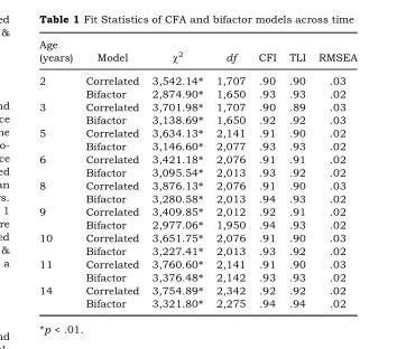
<table><thead><tr><td>Age (years)</td><td>Model</td><td>χ<sup>2</sup></td><td>df</td><td>CFI</td><td>TLI</td><td>RMSEA</td></tr></thead><tbody><tr><td rowspan="2">2</td><td>Correlated</td><td>3,542.14*</td><td>1,707</td><td>.90</td><td>.90</td><td>.03</td></tr><tr><td>Bifactor</td><td>2,874.90*</td><td>1,650</td><td>.93</td><td>.93</td><td>.02</td></tr><tr><td rowspan="2">3</td><td>Correlated</td><td>3,701.98*</td><td>1,707</td><td>.90</td><td>.89</td><td>.03</td></tr><tr><td>Bifactor</td><td>3,138.69*</td><td>1,650</td><td>.92</td><td>.92</td><td>.03</td></tr><tr><td rowspan="2">5</td><td>Correlated</td><td>3,634.13*</td><td>2,141</td><td>.91</td><td>.90</td><td>.02</td></tr><tr><td>Bifactor</td><td>3,146.60*</td><td>2,077</td><td>.93</td><td>.93</td><td>.02</td></tr><tr><td rowspan="2">6</td><td>Correlated</td><td>3,421.18*</td><td>2,076</td><td>.91</td><td>.91</td><td>.02</td></tr><tr><td>Bifactor</td><td>3,095.54*</td><td>2,013</td><td>.93</td><td>.92</td><td>.02</td></tr><tr><td rowspan="2">8</td><td>Correlated</td><td>3,876.13*</td><td>2,076</td><td>.91</td><td>.90</td><td>.03</td></tr><tr><td>Bifactor</td><td>3,280.58*</td><td>2,013</td><td>.94</td><td>.93</td><td>.02</td></tr><tr><td rowspan="2">9</td><td>Correlated</td><td>3,409.85*</td><td>2,012</td><td>.92</td><td>.91</td><td>.02</td></tr><tr><td>Bifactor</td><td>2,977.06*</td><td>1,950</td><td>.94</td><td>.93</td><td>.02</td></tr><tr><td rowspan="2">10</td><td>Correlated</td><td>3,651.75*</td><td>2,076</td><td>.91</td><td>.90</td><td>.03</td></tr><tr><td>Bifactor</td><td>3,227.41*</td><td>2,013</td><td>.93</td><td>.92</td><td>.02</td></tr><tr><td rowspan="2">11</td><td>Correlated</td><td>3,760.60*</td><td>2,141</td><td>.91</td><td>.90</td><td>.03</td></tr><tr><td>Bifactor</td><td>3,376.48*</td><td>2,142</td><td>.93</td><td>.93</td><td>.02</td></tr><tr><td rowspan="2">14</td><td>Correlated</td><td>3,754.89*</td><td>2,342</td><td>.92</td><td>.92</td><td>.02</td></tr><tr><td>Bifactor</td><td>3,321.80*</td><td>2,275</td><td>.94</td><td>.94</td><td>.02</td></tr></tbody></table>